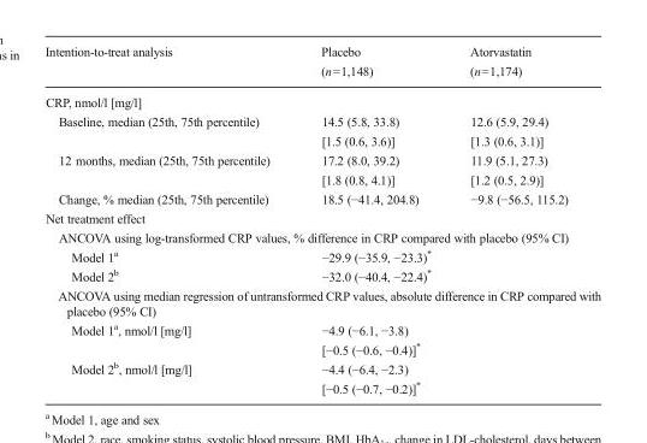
<table><thead><tr><td>Intention-to-treat analysis</td><td>Placebo (n=1,148)</td><td>Atorvastatin (n=1,174)</td></tr></thead><tbody><tr><td colspan="3">CRP, nmol/l [mg/l]</td></tr><tr><td>Baseline, median (25th, 75th percentile)</td><td>14.5 (5.8, 33.8) [1.5 (0.6, 3.6)]</td><td>12.6 (5.9, 29.4) [1.3 (0.6, 3.1)]</td></tr><tr><td>12 months, median (25th, 75th percentile)</td><td>17.2 (8.0, 39.2) [1.8 (0.8, 4.1)]</td><td>11.9 (5.1, 27.3) [1.2 (0.5, 2.9)]</td></tr><tr><td>Change, % median (25th, 75th percentile)</td><td>18.5 (−41.4, 204.8)</td><td>−9.8 (−56.5, 115.2)</td></tr><tr><td colspan="3">Net treatment effect</td></tr><tr><td colspan="3">ANCOVA using log-transformed CRP values, % difference in CRP compared with placebo (95% CI)</td></tr><tr><td>Model 1<sup>a</sup></td><td colspan="2">−29.9 (−35.9, −23.3)*</td></tr><tr><td>Model 2<sup>b</sup></td><td colspan="2">−32.0 (−40.4, −22.4)*</td></tr><tr><td colspan="3">ANCOVA using median regression of untransformed CRP values, absolute difference in CRP compared with placebo (95% CI)</td></tr><tr><td>Model 1<sup>a</sup>, nmol/l [mg/l]</td><td colspan="2">−4.9 (−6.1, −3.8) [−0.5 (−0.6, −0.4)]*</td></tr><tr><td>Model 2<sup>b</sup>, nmol/l [mg/l]</td><td colspan="2">−4.4 (−6.4, −2.3) [−0.5 (−0.7, −0.2)]*</td></tr></tbody></table>